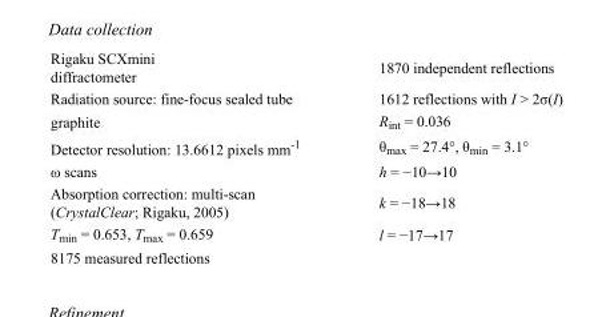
<table><tbody><tr><td>Rigaku SCXmini diffractometer</td><td>1870 independent reflections</td></tr><tr><td>Radiation source: fine-focus sealed tube</td><td>1612 reflections with I &gt; 2σ(I)</td></tr><tr><td>graphite</td><td>R<sub>int</sub> = 0.036</td></tr><tr><td>Detector resolution: 13.6612 pixels mm<sup>-1</sup></td><td>θ<sub>max</sub> = 27.4°, θ<sub>min</sub> = 3.1°</td></tr><tr><td>ω scans</td><td>h = −10→10</td></tr><tr><td>Absorption correction: multi-scan (CrystalClear; Rigaku, 2005)</td><td>k = −18→18</td></tr><tr><td>T<sub>min</sub> = 0.653, T<sub>max</sub> = 0.659</td><td>l = −17→17</td></tr><tr><td>8175 measured reflections</td><td></td></tr></tbody></table>